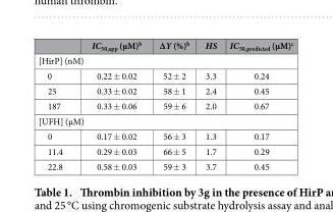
<table><thead><tr><td></td><td>IC<sub>50,app</sub> (μM)<sup>b</sup></td><td>ΔY (%)<sup>b</sup></td><td>HS</td><td>IC<sub>50,predicted</sub> (μM)<sup>c</sup></td></tr></thead><tbody><tr><td colspan="5">[HirP] (nM)</td></tr><tr><td>0</td><td>0.22 ± 0.02</td><td>52 ± 2</td><td>3.3</td><td>0.24</td></tr><tr><td>25</td><td>0.33 ± 0.02</td><td>58 ± 1</td><td>2.4</td><td>0.45</td></tr><tr><td>187</td><td>0.33 ± 0.06</td><td>59 ± 6</td><td>2.0</td><td>0.67</td></tr><tr><td colspan="5">[UFH] (μM)</td></tr><tr><td>0</td><td>0.17 ± 0.02</td><td>56 ± 3</td><td>1.3</td><td>0.17</td></tr><tr><td>11.4</td><td>0.29 ± 0.03</td><td>66 ± 5</td><td>1.7</td><td>0.29</td></tr><tr><td>22.8</td><td>0.58 ± 0.03</td><td>59 ± 3</td><td>3.7</td><td>0.45</td></tr></tbody></table>